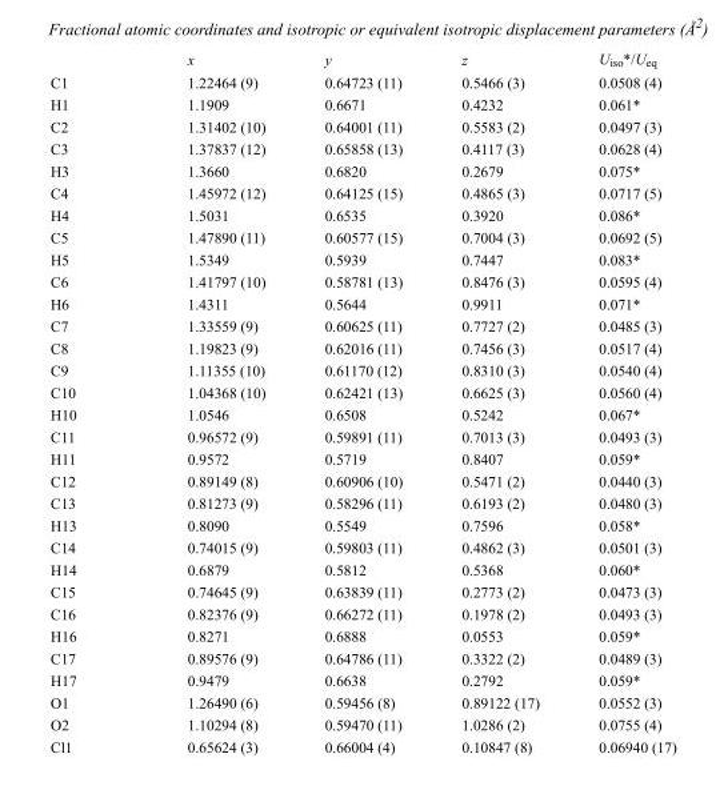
<table><thead><tr><td></td><td>x</td><td>y</td><td>z</td><td>U<sub>iso</sub>*/U<sub>eq</sub></td></tr></thead><tbody><tr><td>C1</td><td>1.22464 (9)</td><td>0.64723 (11)</td><td>0.5466 (3)</td><td>0.0508 (4)</td></tr><tr><td>H1</td><td>1.1909</td><td>0.6671</td><td>0.4232</td><td>0.061*</td></tr><tr><td>C2</td><td>1.31402 (10)</td><td>0.64001 (11)</td><td>0.5583 (2)</td><td>0.0497 (3)</td></tr><tr><td>C3</td><td>1.37837 (12)</td><td>0.65858 (13)</td><td>0.4117 (3)</td><td>0.0628 (4)</td></tr><tr><td>H3</td><td>1.3660</td><td>0.6820</td><td>0.2679</td><td>0.075*</td></tr><tr><td>C4</td><td>1.45972 (12)</td><td>0.64125 (15)</td><td>0.4865 (3)</td><td>0.0717 (5)</td></tr><tr><td>H4</td><td>1.5031</td><td>0.6535</td><td>0.3920</td><td>0.086*</td></tr><tr><td>C5</td><td>1.47890 (11)</td><td>0.60577 (15)</td><td>0.7004 (3)</td><td>0.0692 (5)</td></tr><tr><td>H5</td><td>1.5349</td><td>0.5939</td><td>0.7447</td><td>0.083*</td></tr><tr><td>C6</td><td>1.41797 (10)</td><td>0.58781 (13)</td><td>0.8476 (3)</td><td>0.0595 (4)</td></tr><tr><td>H6</td><td>1.4311</td><td>0.5644</td><td>0.9911</td><td>0.071*</td></tr><tr><td>C7</td><td>1.33559 (9)</td><td>0.60625 (11)</td><td>0.7727 (2)</td><td>0.0485 (3)</td></tr><tr><td>C8</td><td>1.19823 (9)</td><td>0.62016 (11)</td><td>0.7456 (3)</td><td>0.0517 (4)</td></tr><tr><td>C9</td><td>1.11355 (10)</td><td>0.61170 (12)</td><td>0.8310 (3)</td><td>0.0540 (4)</td></tr><tr><td>C10</td><td>1.04368 (10)</td><td>0.62421 (13)</td><td>0.6625 (3)</td><td>0.0560 (4)</td></tr><tr><td>H10</td><td>1.0546</td><td>0.6508</td><td>0.5242</td><td>0.067*</td></tr><tr><td>C11</td><td>0.96572 (9)</td><td>0.59891 (11)</td><td>0.7013 (3)</td><td>0.0493 (3)</td></tr><tr><td>H11</td><td>0.9572</td><td>0.5719</td><td>0.8407</td><td>0.059*</td></tr><tr><td>C12</td><td>0.89149 (8)</td><td>0.60906 (10)</td><td>0.5471 (2)</td><td>0.0440 (3)</td></tr><tr><td>C13</td><td>0.81273 (9)</td><td>0.58296 (11)</td><td>0.6193 (2)</td><td>0.0480 (3)</td></tr><tr><td>H13</td><td>0.8090</td><td>0.5549</td><td>0.7596</td><td>0.058*</td></tr><tr><td>C14</td><td>0.74015 (9)</td><td>0.59803 (11)</td><td>0.4862 (3)</td><td>0.0501 (3)</td></tr><tr><td>H14</td><td>0.6879</td><td>0.5812</td><td>0.5368</td><td>0.060*</td></tr><tr><td>C15</td><td>0.74645 (9)</td><td>0.63839 (11)</td><td>0.2773 (2)</td><td>0.0473 (3)</td></tr><tr><td>C16</td><td>0.82376 (9)</td><td>0.66272 (11)</td><td>0.1978 (2)</td><td>0.0493 (3)</td></tr><tr><td>H16</td><td>0.8271</td><td>0.6888</td><td>0.0553</td><td>0.059*</td></tr><tr><td>C17</td><td>0.89576 (9)</td><td>0.64786 (11)</td><td>0.3322 (2)</td><td>0.0489 (3)</td></tr><tr><td>H17</td><td>0.9479</td><td>0.6638</td><td>0.2792</td><td>0.059*</td></tr><tr><td>O1</td><td>1.26490 (6)</td><td>0.59456 (8)</td><td>0.89122 (17)</td><td>0.0552 (3)</td></tr><tr><td>O2</td><td>1.10294 (8)</td><td>0.59470 (11)</td><td>1.0286 (2)</td><td>0.0755 (4)</td></tr><tr><td>Cl1</td><td>0.65624 (3)</td><td>0.66004 (4)</td><td>0.10847 (8)</td><td>0.06940 (17)</td></tr></tbody></table>